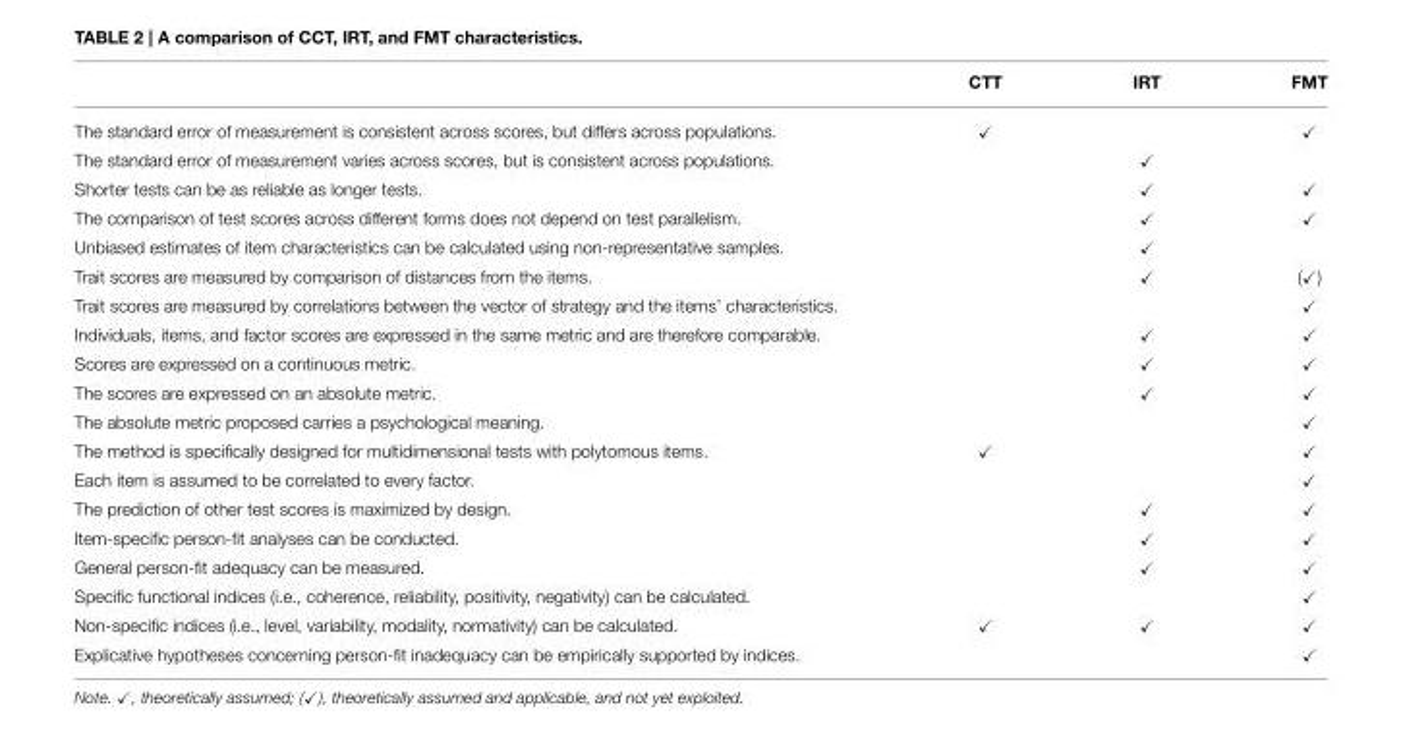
<table><thead><tr><td></td><td>CTT</td><td>IRT</td><td>FMT</td></tr></thead><tbody><tr><td>The standard error of measurement is consistent across scores, but differs across populations.</td><td>✓</td><td></td><td>✓</td></tr><tr><td>The standard error of measurement varies across scores, but is consistent across populations.</td><td></td><td>✓</td><td></td></tr><tr><td>Shorter tests can be as reliable as longer tests.</td><td></td><td>✓</td><td>✓</td></tr><tr><td>The comparison of test scores across different forms does not depend on test parallelism.</td><td></td><td>✓</td><td>✓</td></tr><tr><td>Unbiased estimates of item characteristics can be calculated using non-representative samples.</td><td></td><td>✓</td><td></td></tr><tr><td>Trait scores are measured by comparison of distances from the items.</td><td></td><td>✓</td><td>(✓)</td></tr><tr><td>Trait scores are measured by correlations between the vector of strategy and the items’ characteristics.</td><td></td><td></td><td>✓</td></tr><tr><td>Individuals, items, and factor scores are expressed in the same metric and are therefore comparable.</td><td></td><td>✓</td><td>✓</td></tr><tr><td>Scores are expressed on a continuous metric.</td><td></td><td>✓</td><td>✓</td></tr><tr><td>The scores are expressed on an absolute metric.</td><td></td><td>✓</td><td>✓</td></tr><tr><td>The absolute metric proposed carries a psychological meaning.</td><td></td><td></td><td>✓</td></tr><tr><td>The method is specifically designed for multidimensional tests with polytomous items.</td><td>✓</td><td></td><td>✓</td></tr><tr><td>Each item is assumed to be correlated to every factor.</td><td></td><td></td><td>✓</td></tr><tr><td>The prediction of other test scores is maximized by design.</td><td></td><td>✓</td><td>✓</td></tr><tr><td>Item-specific person-fit analyses can be conducted.</td><td></td><td>✓</td><td>✓</td></tr><tr><td>General person-fit adequacy can be measured.</td><td></td><td>✓</td><td>✓</td></tr><tr><td>Specific functional indices (i.e., coherence, reliability, positivity, negativity) can be calculated.</td><td></td><td></td><td>✓</td></tr><tr><td>Non-specific indices (i.e., level, variability, modality, normativity) can be calculated.</td><td>✓</td><td>✓</td><td>✓</td></tr><tr><td>Explicative hypotheses concerning person-fit inadequacy can be empirically supported by indices.</td><td></td><td></td><td>✓</td></tr></tbody></table>